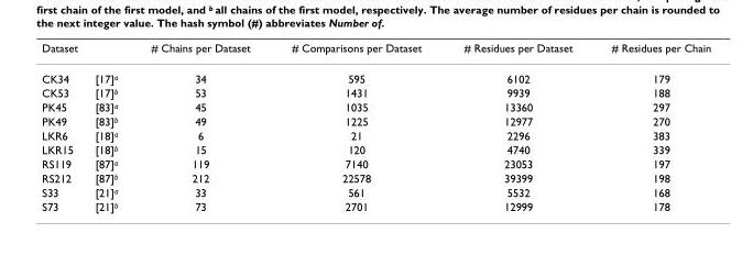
<table><thead><tr><td colspan="2">Dataset</td><td rowspan="2"># Chains per Dataset 34</td><td rowspan="2"># Comparisons per Dataset 595</td><td rowspan="2"># Residues per Dataset 6102</td><td rowspan="2"># Residues per Chain 179</td></tr><tr><td>CK34</td><td>[17]<sup>a</sup></td></tr></thead><tbody><tr><td>CK53</td><td>[17]<sup>b</sup></td><td>53</td><td>1431</td><td>9939</td><td>188</td></tr><tr><td>PK45</td><td>[83]<sup>a</sup></td><td>45</td><td>1035</td><td>13360</td><td>297</td></tr><tr><td>PK49</td><td>[83]<sup>b</sup></td><td>49</td><td>1225</td><td>12977</td><td>270</td></tr><tr><td>LKR6</td><td>[18]<sup>a</sup></td><td>6</td><td>21</td><td>2296</td><td>383</td></tr><tr><td>LKR15</td><td>[18]<sup>b</sup></td><td>15</td><td>120</td><td>4740</td><td>339</td></tr><tr><td>RS119</td><td>[87]<sup>a</sup></td><td>119</td><td>7140</td><td>23053</td><td>197</td></tr><tr><td>RS212</td><td>[87]<sup>b</sup></td><td>212</td><td>22578</td><td>39399</td><td>198</td></tr><tr><td>S33</td><td>[21]<sup>a</sup></td><td>33</td><td>561</td><td>5532</td><td>168</td></tr><tr><td>S73</td><td>[21]<sup>b</sup></td><td>73</td><td>2701</td><td>12999</td><td>178</td></tr></tbody></table>